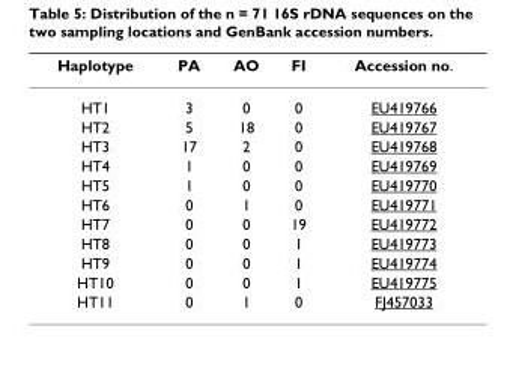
<table><thead><tr><td>Haplotype</td><td>PA</td><td>AO</td><td>FI</td><td>Accession no.</td></tr></thead><tbody><tr><td>HT1</td><td>3</td><td>0</td><td>0</td><td>EU419766</td></tr><tr><td>HT2</td><td>5</td><td>18</td><td>0</td><td>EU419767</td></tr><tr><td>HT3</td><td>17</td><td>2</td><td>0</td><td>EU419768</td></tr><tr><td>HT4</td><td>1</td><td>0</td><td>0</td><td>EU419769</td></tr><tr><td>HT5</td><td>1</td><td>0</td><td>0</td><td>EU419770</td></tr><tr><td>HT6</td><td>0</td><td>1</td><td>0</td><td>EU419771</td></tr><tr><td>HT7</td><td>0</td><td>0</td><td>19</td><td>EU419772</td></tr><tr><td>HT8</td><td>0</td><td>0</td><td>1</td><td>EU419773</td></tr><tr><td>HT9</td><td>0</td><td>0</td><td>1</td><td>EU419774</td></tr><tr><td>HT10</td><td>0</td><td>0</td><td>1</td><td>EU419775</td></tr><tr><td>HT11</td><td>0</td><td>1</td><td>0</td><td>FJ457033</td></tr></tbody></table>